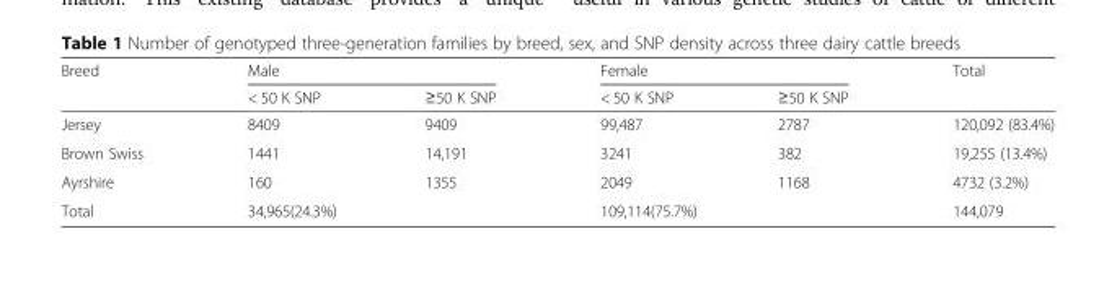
<table><thead><tr><td rowspan="2">Breed</td><td colspan="2">Male</td><td colspan="2">Female</td><td rowspan="2">Total</td></tr><tr><td>&lt; 50 K SNP</td><td>≥50 K SNP</td><td>&lt; 50 K SNP</td><td>≥50 K SNP</td></tr></thead><tbody><tr><td>Jersey</td><td>8409</td><td>9409</td><td>99,487</td><td>2787</td><td>120,092 (83.4%)</td></tr><tr><td>Brown Swiss</td><td>1441</td><td>14,191</td><td>3241</td><td>382</td><td>19,255 (13.4%)</td></tr><tr><td>Ayrshire</td><td>160</td><td>1355</td><td>2049</td><td>1168</td><td>4732 (3.2%)</td></tr><tr><td>Total</td><td colspan="2">34,965(24.3%)</td><td colspan="2">109,114(75.7%)</td><td>144,079</td></tr></tbody></table>